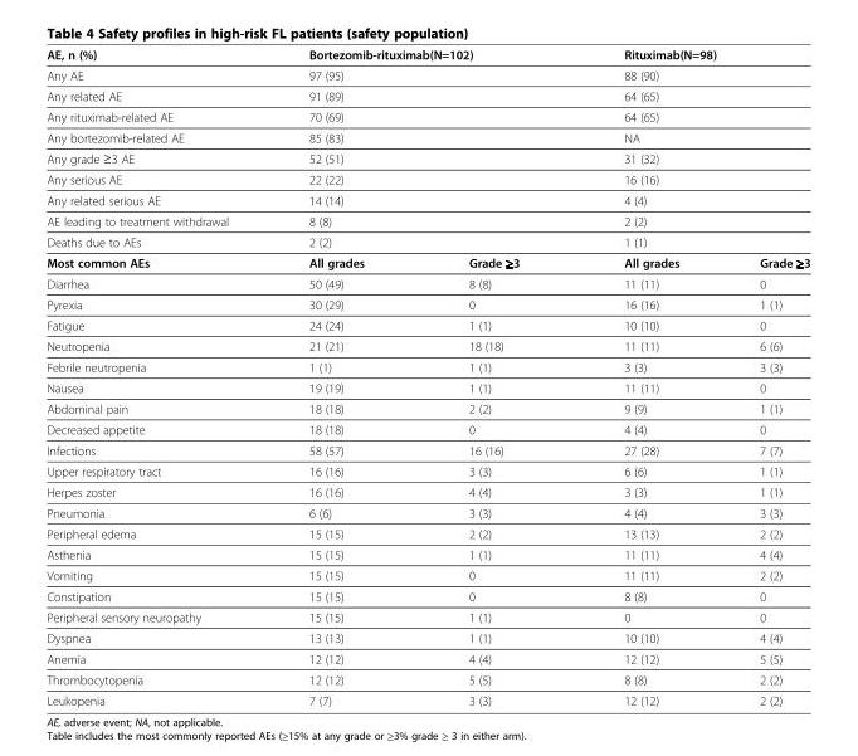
<table><thead><tr><td>AE, n (%)</td><td colspan="2">Bortezomib-rituximab(N=102)</td><td colspan="2">Rituximab(N=98)</td></tr></thead><tbody><tr><td>Any AE</td><td colspan="2">97 (95)</td><td colspan="2">88 (90)</td></tr><tr><td>Any related AE</td><td colspan="2">91 (89)</td><td colspan="2">64 (65)</td></tr><tr><td>Any rituximab-related AE</td><td colspan="2">70 (69)</td><td colspan="2">64 (65)</td></tr><tr><td>Any bortezomib-related AE</td><td colspan="2">85 (83)</td><td colspan="2">NA</td></tr><tr><td>Any grade ≥3 AE</td><td colspan="2">52 (51)</td><td colspan="2">31 (32)</td></tr><tr><td>Any serious AE</td><td colspan="2">22 (22)</td><td colspan="2">16 (16)</td></tr><tr><td>Any related serious AE</td><td colspan="2">14 (14)</td><td colspan="2">4 (4)</td></tr><tr><td>AE leading to treatment withdrawal</td><td colspan="2">8 (8)</td><td colspan="2">2 (2)</td></tr><tr><td>Deaths due to AEs</td><td colspan="2">2 (2)</td><td colspan="2">1 (1)</td></tr><tr><td>Most common AEs</td><td>All grades</td><td>Grade ≥3</td><td>All grades</td><td>Grade ≥3</td></tr><tr><td>Diarrhea</td><td>50 (49)</td><td>8 (8)</td><td>11 (11)</td><td>0</td></tr><tr><td>Pyrexia</td><td>30 (29)</td><td>0</td><td>16 (16)</td><td>1 (1)</td></tr><tr><td>Fatigue</td><td>24 (24)</td><td>1 (1)</td><td>10 (10)</td><td>0</td></tr><tr><td>Neutropenia</td><td>21 (21)</td><td>18 (18)</td><td>11 (11)</td><td>6 (6)</td></tr><tr><td>Febrile neutropenia</td><td>1 (1)</td><td>1 (1)</td><td>3 (3)</td><td>3 (3)</td></tr><tr><td>Nausea</td><td>19 (19)</td><td>1 (1)</td><td>11 (11)</td><td>0</td></tr><tr><td>Abdominal pain</td><td>18 (18)</td><td>2 (2)</td><td>9 (9)</td><td>1 (1)</td></tr><tr><td>Decreased appetite</td><td>18 (18)</td><td>0</td><td>4 (4)</td><td>0</td></tr><tr><td>Infections</td><td>58 (57)</td><td>16 (16)</td><td>27 (28)</td><td>7 (7)</td></tr><tr><td>Upper respiratory tract</td><td>16 (16)</td><td>3 (3)</td><td>6 (6)</td><td>1 (1)</td></tr><tr><td>Herpes zoster</td><td>16 (16)</td><td>4 (4)</td><td>3 (3)</td><td>1 (1)</td></tr><tr><td>Pneumonia</td><td>6 (6)</td><td>3 (3)</td><td>4 (4)</td><td>3 (3)</td></tr><tr><td>Peripheral edema</td><td>15 (15)</td><td>2 (2)</td><td>13 (13)</td><td>2 (2)</td></tr><tr><td>Asthenia</td><td>15 (15)</td><td>1 (1)</td><td>11 (11)</td><td>4 (4)</td></tr><tr><td>Vomiting</td><td>15 (15)</td><td>0</td><td>11 (11)</td><td>2 (2)</td></tr><tr><td>Constipation</td><td>15 (15)</td><td>0</td><td>8 (8)</td><td>0</td></tr><tr><td>Peripheral sensory neuropathy</td><td>15 (15)</td><td>1 (1)</td><td>0</td><td>0</td></tr><tr><td>Dyspnea</td><td>13 (13)</td><td>1 (1)</td><td>10 (10)</td><td>4 (4)</td></tr><tr><td>Anemia</td><td>12 (12)</td><td>4 (4)</td><td>12 (12)</td><td>5 (5)</td></tr><tr><td>Thrombocytopenia</td><td>12 (12)</td><td>5 (5)</td><td>8 (8)</td><td>2 (2)</td></tr><tr><td>Leukopenia</td><td>7 (7)</td><td>3 (3)</td><td>12 (12)</td><td>2 (2)</td></tr></tbody></table>